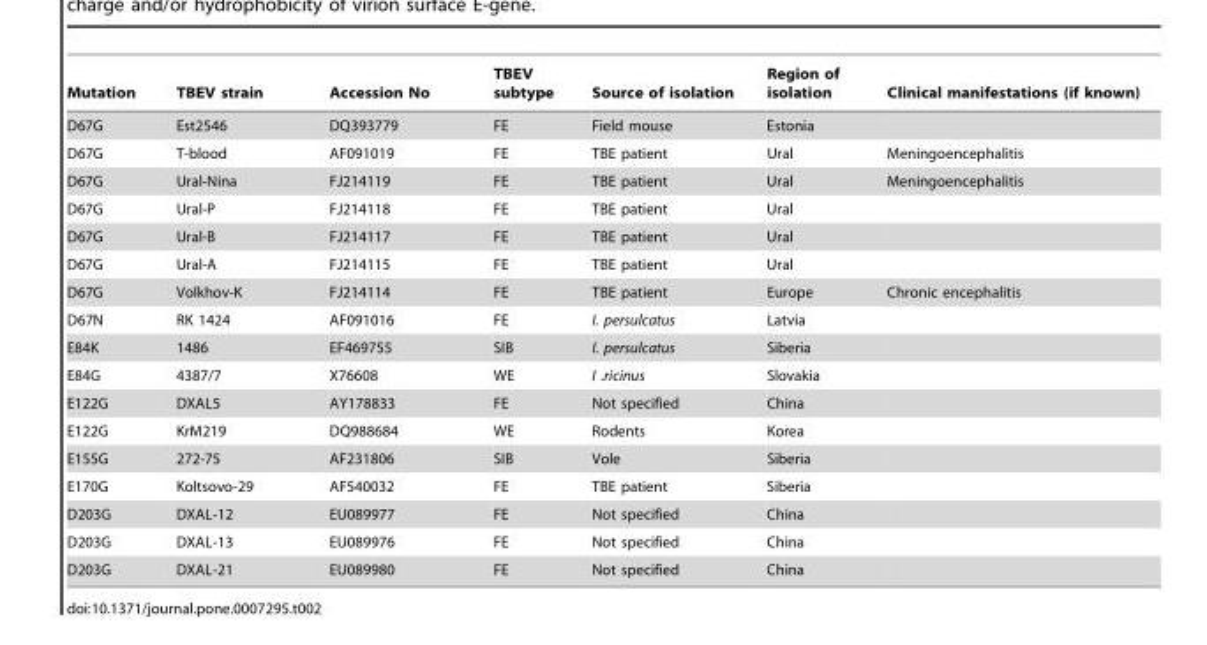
<table><thead><tr><td>Mutation</td><td>TBEV strain</td><td>Accession No</td><td>TBEV subtype</td><td>Source of isolation</td><td>Region of isolation</td><td>Clinical manifestations (if known)</td></tr></thead><tbody><tr><td>D67G</td><td>Est2546</td><td>DQ393779</td><td>FE</td><td>Field mouse</td><td>Estonia</td><td></td></tr><tr><td>D67G</td><td>T-blood</td><td>AF091019</td><td>FE</td><td>TBE patient</td><td>Ural</td><td>Meningoencephalitis</td></tr><tr><td>D67G</td><td>Ural-Nina</td><td>FJ214119</td><td>FE</td><td>TBE patient</td><td>Ural</td><td>Meningoencephalitis</td></tr><tr><td>D67G</td><td>Ural-P</td><td>FJ214118</td><td>FE</td><td>TBE patient</td><td>Ural</td><td></td></tr><tr><td>D67G</td><td>Ural-B</td><td>FJ214117</td><td>FE</td><td>TBE patient</td><td>Ural</td><td></td></tr><tr><td>D67G</td><td>Ural-A</td><td>FJ214115</td><td>FE</td><td>TBE patient</td><td>Ural</td><td></td></tr><tr><td>D67G</td><td>Volkhov-K</td><td>FJ214114</td><td>FE</td><td>TBE patient</td><td>Europe</td><td>Chronic encephalitis</td></tr><tr><td>D67N</td><td>RK 1424</td><td>AF091016</td><td>FE</td><td>I. persulcatus</td><td>Latvia</td><td></td></tr><tr><td>E84K</td><td>1486</td><td>EF469755</td><td>SIB</td><td>I. persulcatus</td><td>Siberia</td><td></td></tr><tr><td>E84G</td><td>4387/7</td><td>X76608</td><td>WE</td><td>I .ricinus</td><td>Slovakia</td><td></td></tr><tr><td>E122G</td><td>DXAL5</td><td>AY178833</td><td>FE</td><td>Not specified</td><td>China</td><td></td></tr><tr><td>E122G</td><td>KrM219</td><td>DQ988684</td><td>WE</td><td>Rodents</td><td>Korea</td><td></td></tr><tr><td>E155G</td><td>272-75</td><td>AF231806</td><td>SIB</td><td>Vole</td><td>Siberia</td><td></td></tr><tr><td>E170G</td><td>Koltsovo-29</td><td>AF540032</td><td>FE</td><td>TBE patient</td><td>Siberia</td><td></td></tr><tr><td>D203G</td><td>DXAL-12</td><td>EU089977</td><td>FE</td><td>Not specified</td><td>China</td><td></td></tr><tr><td>D203G</td><td>DXAL-13</td><td>EU089976</td><td>FE</td><td>Not specified</td><td>China</td><td></td></tr><tr><td>D203G</td><td>DXAL-21</td><td>EU089980</td><td>FE</td><td>Not specified</td><td>China</td><td></td></tr></tbody></table>